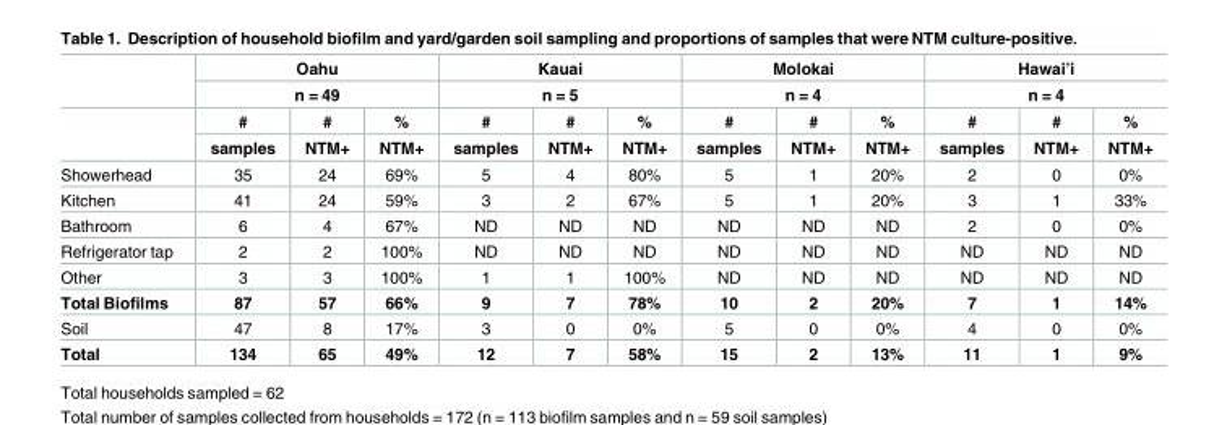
<table><thead><tr><td rowspan="4"></td><td rowspan="2" colspan="3">Oahu n = 49</td><td rowspan="2" colspan="3">Kauai n = 5</td><td rowspan="2" colspan="3">Molokai n = 4</td><td rowspan="2" colspan="3">Hawai’i n = 4</td></tr><tr></tr><tr><td rowspan="2"># samples</td><td rowspan="2"># NTM+</td><td rowspan="2">% NTM+</td><td rowspan="2"># samples</td><td rowspan="2"># NTM+</td><td rowspan="2">% NTM+</td><td rowspan="2"># samples</td><td rowspan="2"># NTM+</td><td rowspan="2">% NTM+</td><td rowspan="2"># samples</td><td rowspan="2"># NTM+</td><td rowspan="2">% NTM+</td></tr><tr></tr></thead><tbody><tr><td>Showerhead</td><td>35</td><td>24</td><td>69%</td><td>5</td><td>4</td><td>80%</td><td>5</td><td>1</td><td>20%</td><td>2</td><td>0</td><td>0%</td></tr><tr><td>Kitchen</td><td>41</td><td>24</td><td>59%</td><td>3</td><td>2</td><td>67%</td><td>5</td><td>1</td><td>20%</td><td>3</td><td>1</td><td>33%</td></tr><tr><td>Bathroom</td><td>6</td><td>4</td><td>67%</td><td>ND</td><td>ND</td><td>ND</td><td>ND</td><td>ND</td><td>ND</td><td>2</td><td>0</td><td>0%</td></tr><tr><td>Refrigerator tap</td><td>2</td><td>2</td><td>100%</td><td>ND</td><td>ND</td><td>ND</td><td>ND</td><td>ND</td><td>ND</td><td>ND</td><td>ND</td><td>ND</td></tr><tr><td>Other</td><td>3</td><td>3</td><td>100%</td><td>1</td><td>1</td><td>100%</td><td>ND</td><td>ND</td><td>ND</td><td>ND</td><td>ND</td><td>ND</td></tr><tr><td>Total Biofilms</td><td>87</td><td>57</td><td>66%</td><td>9</td><td>7</td><td>78%</td><td>10</td><td>2</td><td>20%</td><td>7</td><td>1</td><td>14%</td></tr><tr><td>Soil</td><td>47</td><td>8</td><td>17%</td><td>3</td><td>0</td><td>0%</td><td>5</td><td>0</td><td>0%</td><td>4</td><td>0</td><td>0%</td></tr><tr><td>Total</td><td>134</td><td>65</td><td>49%</td><td>12</td><td>7</td><td>58%</td><td>15</td><td>2</td><td>13%</td><td>11</td><td>1</td><td>9%</td></tr></tbody></table>